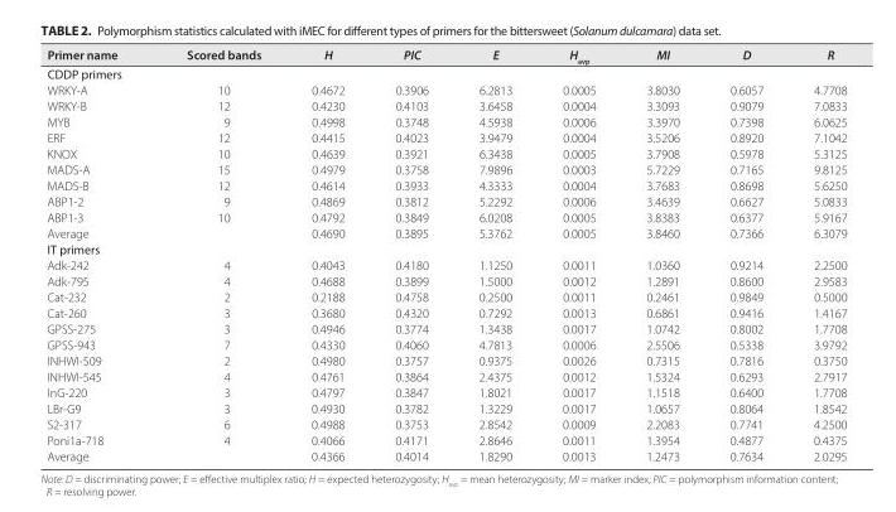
<table><thead><tr><td>Primer name</td><td>Scored bands</td><td>H</td><td>PIC</td><td>E</td><td>H<sub>avp</sub></td><td>MI</td><td>D</td><td>R</td></tr></thead><tbody><tr><td colspan="9">CDDP primers</td></tr><tr><td>WRKY- A</td><td>10</td><td>0.4672</td><td>0.3906</td><td>6.2813</td><td>0.0005</td><td>3.8030</td><td>0.6057</td><td>4.7708</td></tr><tr><td>WRKY- B</td><td>12</td><td>0.4230</td><td>0.4103</td><td>3.6458</td><td>0.0004</td><td>3.3093</td><td>0.9079</td><td>7.0833</td></tr><tr><td>MYB</td><td>9</td><td>0.4998</td><td>0.3748</td><td>4.5938</td><td>0.0006</td><td>3.3970</td><td>0.7398</td><td>6.0625</td></tr><tr><td>ERF</td><td>12</td><td>0.4415</td><td>0.4023</td><td>3.9479</td><td>0.0004</td><td>3.5206</td><td>0.8920</td><td>7.1042</td></tr><tr><td>KNOX</td><td>10</td><td>0.4639</td><td>0.3921</td><td>6.3438</td><td>0.0005</td><td>3.7908</td><td>0.5978</td><td>5.3125</td></tr><tr><td>MADS- A</td><td>15</td><td>0.4979</td><td>0.3758</td><td>7.9896</td><td>0.0003</td><td>5.7229</td><td>0.7165</td><td>9.8125</td></tr><tr><td>MADS- B</td><td>12</td><td>0.4614</td><td>0.3933</td><td>4.3333</td><td>0.0004</td><td>3.7683</td><td>0.8698</td><td>5.6250</td></tr><tr><td>ABP1- 2</td><td>9</td><td>0.4869</td><td>0.3812</td><td>5.2292</td><td>0.0006</td><td>3.4639</td><td>0.6627</td><td>5.0833</td></tr><tr><td>ABP1- 3</td><td>10</td><td>0.4792</td><td>0.3849</td><td>6.0208</td><td>0.0005</td><td>3.8383</td><td>0.6377</td><td>5.9167</td></tr><tr><td>Average</td><td></td><td>0.4690</td><td>0.3895</td><td>5.3762</td><td>0.0005</td><td>3.8460</td><td>0.7366</td><td>6.3079</td></tr><tr><td colspan="9">IT primers</td></tr><tr><td>Adk- 242</td><td>4</td><td>0.4043</td><td>0.4180</td><td>1.1250</td><td>0.0011</td><td>1.0360</td><td>0.9214</td><td>2.2500</td></tr><tr><td>Adk- 795</td><td>4</td><td>0.4688</td><td>0.3899</td><td>1.5000</td><td>0.0012</td><td>1.2891</td><td>0.8600</td><td>2.9583</td></tr><tr><td>Cat- 232</td><td>2</td><td>0.2188</td><td>0.4758</td><td>0.2500</td><td>0.0011</td><td>0.2461</td><td>0.9849</td><td>0.5000</td></tr><tr><td>Cat- 260</td><td>3</td><td>0.3680</td><td>0.4320</td><td>0.7292</td><td>0.0013</td><td>0.6861</td><td>0.9416</td><td>1.4167</td></tr><tr><td>GPSS- 275</td><td>3</td><td>0.4946</td><td>0.3774</td><td>1.3438</td><td>0.0017</td><td>1.0742</td><td>0.8002</td><td>1.7708</td></tr><tr><td>GPSS- 943</td><td>7</td><td>0.4330</td><td>0.4060</td><td>4.7813</td><td>0.0006</td><td>2.5506</td><td>0.5338</td><td>3.9792</td></tr><tr><td>INHWI- 509</td><td>2</td><td>0.4980</td><td>0.3757</td><td>0.9375</td><td>0.0026</td><td>0.7315</td><td>0.7816</td><td>0.3750</td></tr><tr><td>INHWI- 545</td><td>4</td><td>0.4761</td><td>0.3864</td><td>2.4375</td><td>0.0012</td><td>1.5324</td><td>0.6293</td><td>2.7917</td></tr><tr><td>InG- 220</td><td>3</td><td>0.4797</td><td>0.3847</td><td>1.8021</td><td>0.0017</td><td>1.1518</td><td>0.6400</td><td>1.7708</td></tr><tr><td>LBr- G9</td><td>3</td><td>0.4930</td><td>0.3782</td><td>1.3229</td><td>0.0017</td><td>1.0657</td><td>0.8064</td><td>1.8542</td></tr><tr><td>S2- 317</td><td>6</td><td>0.4988</td><td>0.3753</td><td>2.8542</td><td>0.0009</td><td>2.2083</td><td>0.7741</td><td>4.2500</td></tr><tr><td>Poni1a- 718</td><td>4</td><td>0.4066</td><td>0.4171</td><td>2.8646</td><td>0.0011</td><td>1.3954</td><td>0.4877</td><td>0.4375</td></tr><tr><td>Average</td><td></td><td>0.4366</td><td>0.4014</td><td>1.8290</td><td>0.0013</td><td>1.2473</td><td>0.7634</td><td>2.0295</td></tr></tbody></table>